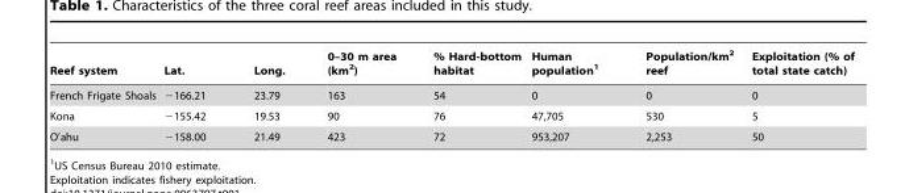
<table><thead><tr><td>Reef system</td><td>Lat.</td><td>Long.</td><td>0–30 m area (km<sup>2</sup>)</td><td>% Hard-bottom habitat</td><td>Human population<sup>1</sup></td><td>Population/km<sup>2</sup> reef</td><td>Exploitation (% of total state catch)</td></tr></thead><tbody><tr><td>French Frigate Shoals</td><td>−166.21</td><td>23.79</td><td>163</td><td>54</td><td>0</td><td>0</td><td>0</td></tr><tr><td>Kona</td><td>−155.42</td><td>19.53</td><td>90</td><td>76</td><td>47,705</td><td>530</td><td>5</td></tr><tr><td>O’ahu</td><td>−158.00</td><td>21.49</td><td>423</td><td>72</td><td>953,207</td><td>2,253</td><td>50</td></tr></tbody></table>